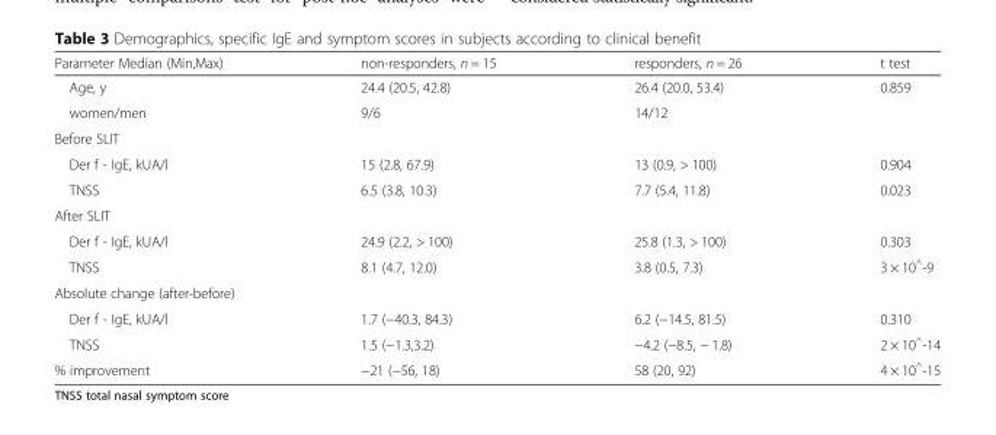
<table><thead><tr><td>Parameter Median (Min,Max)</td><td>non-responders, n = 15</td><td>responders, n = 26</td><td>t test</td></tr></thead><tbody><tr><td>Age, y</td><td>24.4 (20.5, 42.8)</td><td>26.4 (20.0, 53.4)</td><td>0.859</td></tr><tr><td>women/men</td><td>9/6</td><td>14/12</td><td></td></tr><tr><td colspan="4">Before SLIT</td></tr><tr><td>Der f - IgE, kUA/l</td><td>15 (2.8, 67.9)</td><td>13 (0.9, &gt; 100)</td><td>0.904</td></tr><tr><td>TNSS</td><td>6.5 (3.8, 10.3)</td><td>7.7 (5.4, 11.8)</td><td>0.023</td></tr><tr><td colspan="4">After SLIT</td></tr><tr><td>Der f - IgE, kUA/l</td><td>24.9 (2.2, &gt; 100)</td><td>25.8 (1.3, &gt; 100)</td><td>0.303</td></tr><tr><td>TNSS</td><td>8.1 (4.7, 12.0)</td><td>3.8 (0.5, 7.3)</td><td>3 × 10<sup>^</sup>-9</td></tr><tr><td colspan="4">Absolute change (after-before)</td></tr><tr><td>Der f - IgE, kUA/l</td><td>1.7 (−40.3, 84.3)</td><td>6.2 (−14.5, 81.5)</td><td>0.310</td></tr><tr><td>TNSS</td><td>1.5 (−1.3,3.2)</td><td>−4.2 (−8.5, − 1.8)</td><td>2 × 10<sup>^</sup>-14</td></tr><tr><td>% improvement</td><td>−21 (−56, 18)</td><td>58 (20, 92)</td><td>4 × 10<sup>^</sup>-15</td></tr></tbody></table>